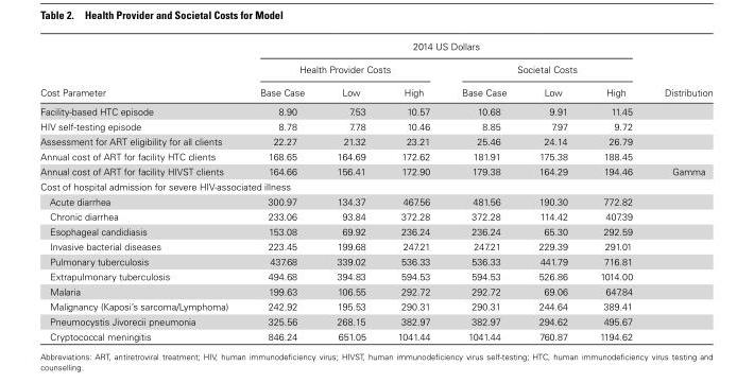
<table><thead><tr><td rowspan="3">Cost Parameter</td><td colspan="6">2014 US Dollars</td><td rowspan="3">Distribution</td></tr><tr><td colspan="3">Health Provider Costs</td><td colspan="3">Societal Costs</td></tr><tr><td>Base Case</td><td>Low</td><td>High</td><td>Base Case</td><td>Low</td><td>High</td></tr></thead><tbody><tr><td>Facility-based HTC episode</td><td>8.90</td><td>7.53</td><td>10.57</td><td>10.68</td><td>9.91</td><td>11.45</td><td></td></tr><tr><td>HIV self-testing episode</td><td>8.78</td><td>7.78</td><td>10.46</td><td>8.85</td><td>7.97</td><td>9.72</td><td></td></tr><tr><td>Assessment for ART eligibility for all clients</td><td>22.27</td><td>21.32</td><td>23.21</td><td>25.46</td><td>24.14</td><td>26.79</td><td></td></tr><tr><td>Annual cost of ART for facility HTC clients</td><td>168.65</td><td>164.69</td><td>172.62</td><td>181.91</td><td>175.38</td><td>188.45</td><td></td></tr><tr><td>Annual cost of ART for facility HIVST clients</td><td>164.66</td><td>156.41</td><td>172.90</td><td>179.38</td><td>164.29</td><td>194.46</td><td>Gamma</td></tr><tr><td colspan="8">Cost of hospital admission for severe HIV-associated illness</td></tr><tr><td>Acute diarrhea</td><td>300.97</td><td>134.37</td><td>467.56</td><td>481.56</td><td>190.30</td><td>772.82</td><td></td></tr><tr><td>Chronic diarrhea</td><td>233.06</td><td>93.84</td><td>372.28</td><td>372.28</td><td>114.42</td><td>407.39</td><td></td></tr><tr><td>Esophageal candidiasis</td><td>153.08</td><td>69.92</td><td>236.24</td><td>236.24</td><td>65.30</td><td>292.59</td><td></td></tr><tr><td>Invasive bacterial diseases</td><td>223.45</td><td>199.68</td><td>247.21</td><td>247.21</td><td>229.39</td><td>291.01</td><td></td></tr><tr><td>Pulmonary tuberculosis</td><td>437.68</td><td>339.02</td><td>536.33</td><td>536.33</td><td>441.79</td><td>716.81</td><td></td></tr><tr><td>Extrapulmonary tuberculosis</td><td>494.68</td><td>394.83</td><td>594.53</td><td>594.53</td><td>526.86</td><td>1014.00</td><td></td></tr><tr><td>Malaria</td><td>199.63</td><td>106.55</td><td>292.72</td><td>292.72</td><td>69.06</td><td>647.84</td><td></td></tr><tr><td>Malignancy (Kaposi’s sarcoma/Lymphoma)</td><td>242.92</td><td>195.53</td><td>290.31</td><td>290.31</td><td>244.64</td><td>389.41</td><td></td></tr><tr><td>Pneumocystis Jivorecii pneumonia</td><td>325.56</td><td>268.15</td><td>382.97</td><td>382.97</td><td>294.62</td><td>495.67</td><td></td></tr><tr><td>Cryptococcal meningitis</td><td>846.24</td><td>651.05</td><td>1041.44</td><td>1041.44</td><td>760.87</td><td>1194.62</td><td></td></tr></tbody></table>